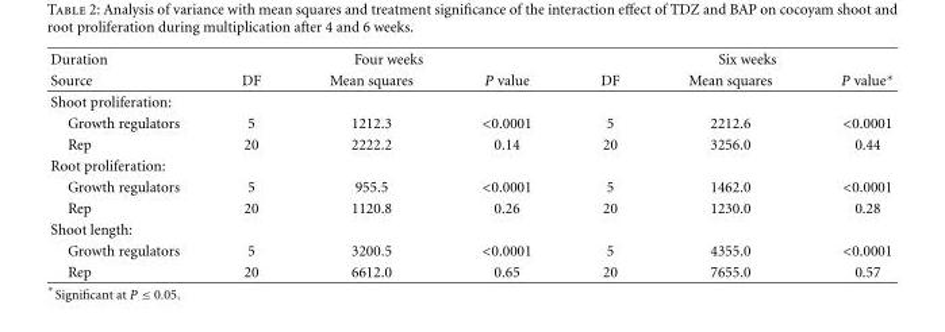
<table><thead><tr><td rowspan="2">Duration Source</td><td colspan="3">Four weeks</td><td colspan="3">Six weeks</td></tr><tr><td>DF</td><td>Mean squares</td><td>P value</td><td>DF</td><td>Mean squares</td><td>P value∗</td></tr></thead><tbody><tr><td colspan="7">Shoot proliferation:</td></tr><tr><td>Growth regulators</td><td>5</td><td>1212.3</td><td>&lt;0.0001</td><td>5</td><td>2212.6</td><td>&lt;0.0001</td></tr><tr><td>Rep</td><td>20</td><td>2222.2</td><td>0.14</td><td>20</td><td>3256.0</td><td>0.44</td></tr><tr><td colspan="7">Root proliferation:</td></tr><tr><td>Growth regulators</td><td>5</td><td>955.5</td><td>&lt;0.0001</td><td>5</td><td>1462.0</td><td>&lt;0.0001</td></tr><tr><td>Rep</td><td>20</td><td>1120.8</td><td>0.26</td><td>20</td><td>1230.0</td><td>0.28</td></tr><tr><td colspan="7">Shoot length:</td></tr><tr><td>Growth regulators</td><td>5</td><td>3200.5</td><td>&lt;0.0001</td><td>5</td><td>4355.0</td><td>&lt;0.0001</td></tr><tr><td>Rep</td><td>20</td><td>6612.0</td><td>0.65</td><td>20</td><td>7655.0</td><td>0.57</td></tr></tbody></table>